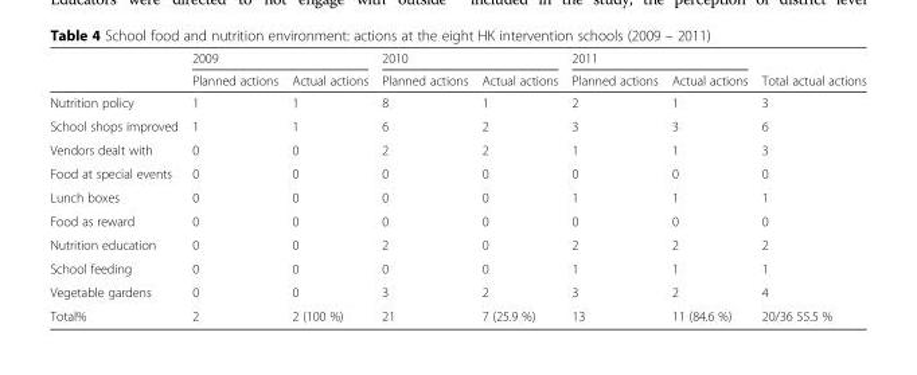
<table><thead><tr><td rowspan="2"></td><td colspan="2">2009</td><td colspan="2">2010</td><td colspan="2">2011</td><td rowspan="2">Total actual actions</td></tr><tr><td>Planned actions</td><td>Actual actions</td><td>Planned actions</td><td>Actual actions</td><td>Planned actions</td><td>Actual actions</td></tr></thead><tbody><tr><td>Nutrition policy</td><td>1</td><td>1</td><td>8</td><td>1</td><td>2</td><td>1</td><td>3</td></tr><tr><td>School shops improved</td><td>1</td><td>1</td><td>6</td><td>2</td><td>3</td><td>3</td><td>6</td></tr><tr><td>Vendors dealt with</td><td>0</td><td>0</td><td>2</td><td>2</td><td>1</td><td>1</td><td>3</td></tr><tr><td>Food at special events</td><td>0</td><td>0</td><td>0</td><td>0</td><td>0</td><td>0</td><td>0</td></tr><tr><td>Lunch boxes</td><td>0</td><td>0</td><td>0</td><td>0</td><td>1</td><td>1</td><td>1</td></tr><tr><td>Food as reward</td><td>0</td><td>0</td><td>0</td><td>0</td><td>0</td><td>0</td><td>0</td></tr><tr><td>Nutrition education</td><td>0</td><td>0</td><td>2</td><td>0</td><td>2</td><td>2</td><td>2</td></tr><tr><td>School feeding</td><td>0</td><td>0</td><td>0</td><td>0</td><td>1</td><td>1</td><td>1</td></tr><tr><td>Vegetable gardens</td><td>0</td><td>0</td><td>3</td><td>2</td><td>3</td><td>2</td><td>4</td></tr><tr><td>Total%</td><td>2</td><td>2 (100 %)</td><td>21</td><td>7 (25.9 %)</td><td>13</td><td>11 (84.6 %)</td><td>20/36 55.5 %</td></tr></tbody></table>